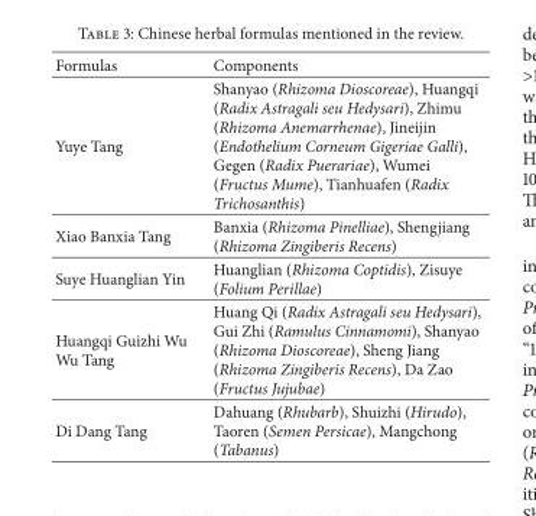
<table><thead><tr><td>Formulas</td><td>Components</td></tr></thead><tbody><tr><td>Yuye Tang</td><td>Shanyao (Rhizoma Dioscoreae), Huangqi (Radix Astragali seu Hedysari), Zhimu (Rhizoma Anemarrhenae), Jineijin (Endothelium Corneum Gigeriae Galli), Gegen (Radix Puerariae), Wumei (Fructus Mume), Tianhuafen (Radix Trichosanthis)</td></tr><tr><td>Xiao Banxia Tang</td><td>Banxia (Rhizoma Pinelliae), Shengjiang (Rhizoma Zingiberis Recens)</td></tr><tr><td>Suye Huanglian Yin</td><td>Huanglian (Rhizoma Coptidis), Zisuye (Folium Perillae)</td></tr><tr><td>Huangqi Guizhi Wu Wu Tang</td><td>Huang Qi (Radix Astragali seu Hedysari), Gui Zhi (Ramulus Cinnamomi), Shanyao (Rhizoma Dioscoreae), Sheng Jiang (Rhizoma Zingiberis Recens), Da Zao (Fructus Jujubae)</td></tr><tr><td>Di Dang Tang</td><td>Dahuang (Rhubarb), Shuizhi (Hirudo), Taoren (Semen Persicae), Mangchong (Tabanus)</td></tr></tbody></table>